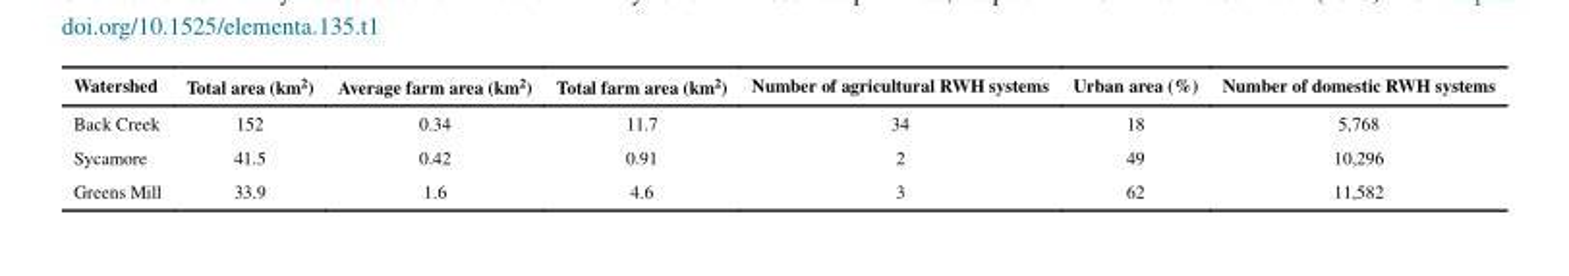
<table><thead><tr><td>Watershed</td><td>Total area (km<sup>2</sup>)</td><td>Average farm area (km<sup>2</sup>)</td><td>Total farm area (km<sup>2</sup>)</td><td>Number of agricultural RWH systems</td><td>Urban area (%)</td><td>Number of domestic RWH systems</td></tr></thead><tbody><tr><td>Back Creek</td><td>152</td><td>0.34</td><td>11.7</td><td>34</td><td>18</td><td>5,768</td></tr><tr><td>Sycamore</td><td>41.5</td><td>0.42</td><td>0.91</td><td>2</td><td>49</td><td>10,296</td></tr><tr><td>Greens Mill</td><td>33.9</td><td>1.6</td><td>4.6</td><td>3</td><td>62</td><td>11,582</td></tr></tbody></table>